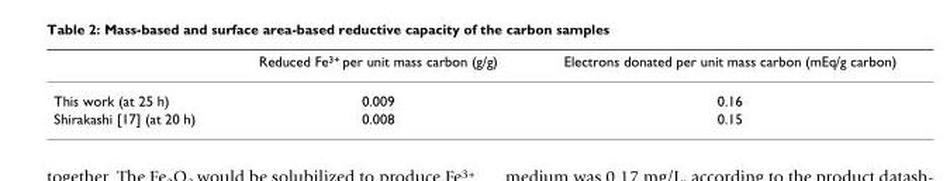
<table><thead><tr><td></td><td>Reduced Fe<sup>3+</sup> per unit mass carbon (g/g)</td><td>Electrons donated per unit mass carbon (mEq/g carbon)</td></tr></thead><tbody><tr><td>This work (at 25 h)</td><td>0.009</td><td>0.16</td></tr><tr><td>Shirakashi [17] (at 20 h)</td><td>0.008</td><td>0.15</td></tr></tbody></table>